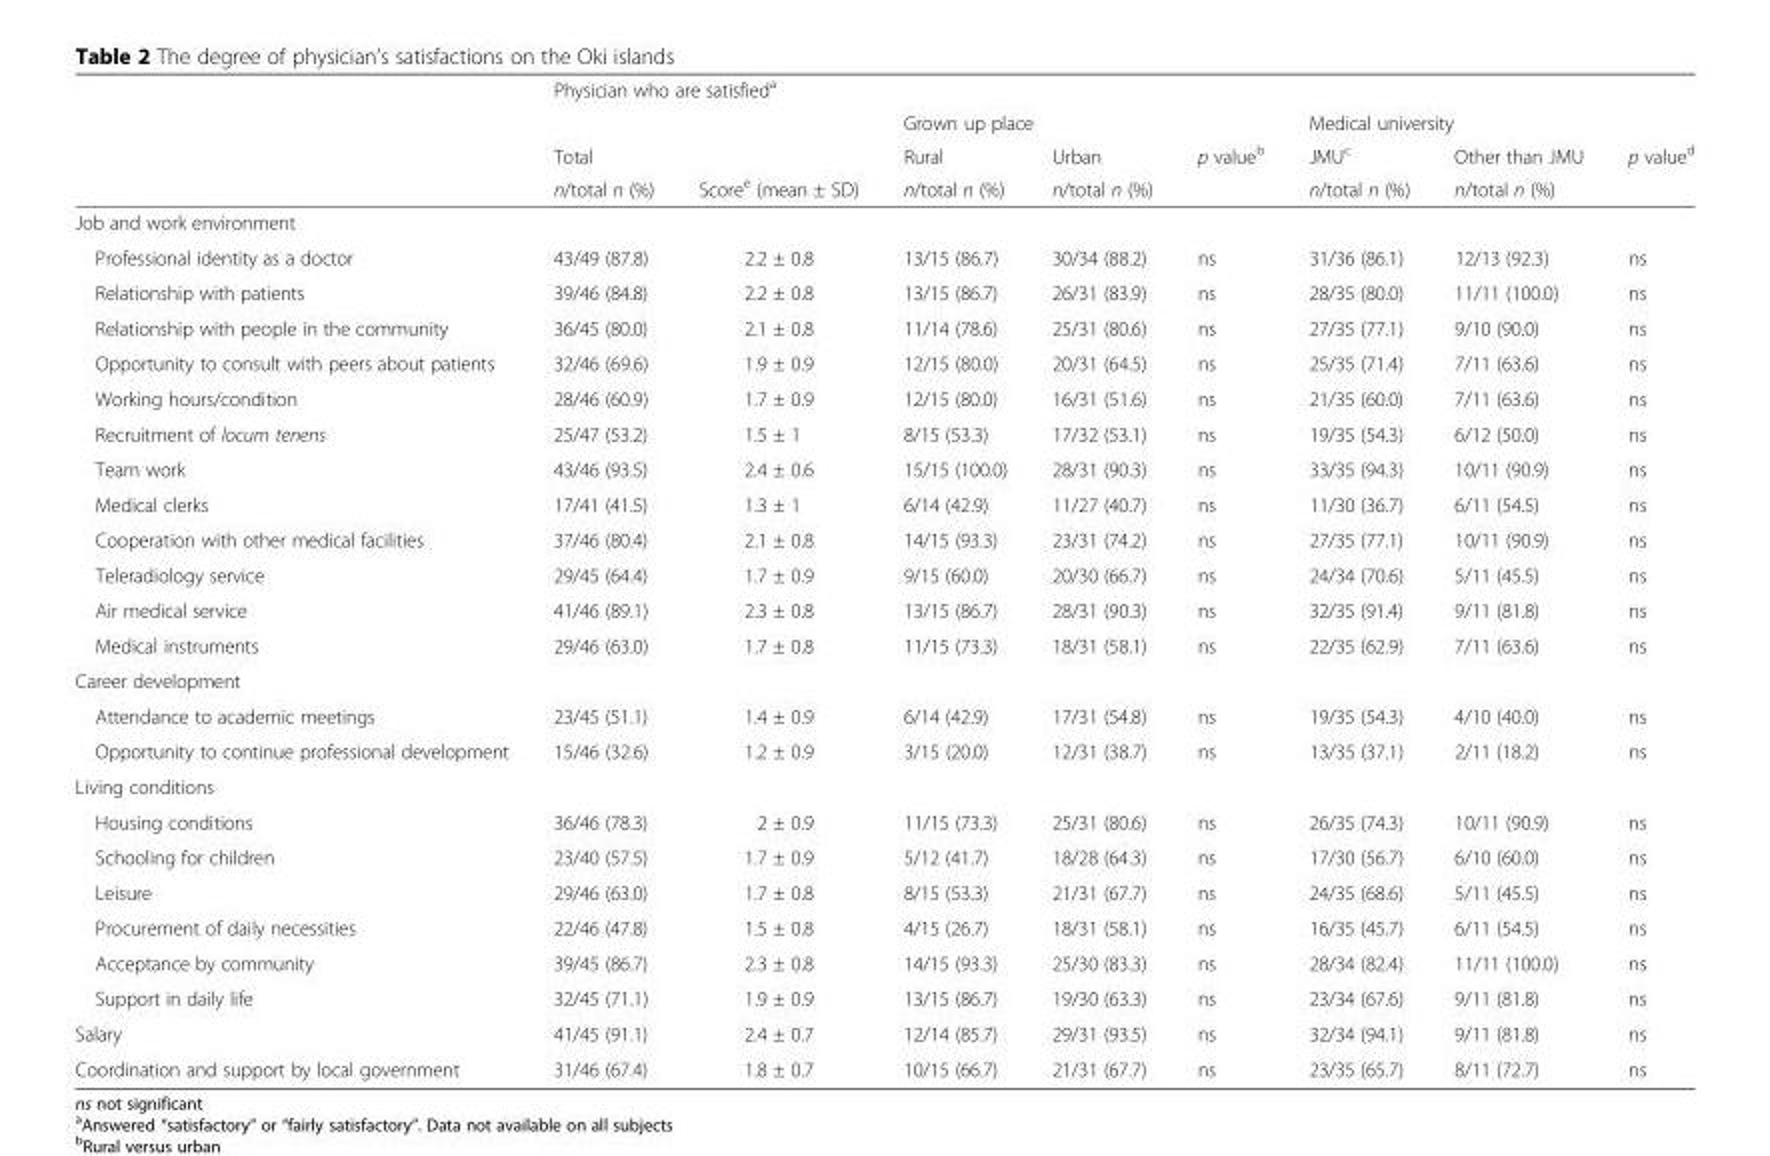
<table><thead><tr><td rowspan="4"></td><td colspan="8">Physician who are satisfied<sup>a</sup></td></tr><tr><td></td><td></td><td colspan="3">Grown up place</td><td colspan="3">Medical university</td></tr><tr><td colspan="2">Total</td><td rowspan="2">Rural n/total n (%)</td><td rowspan="2">Urban n/total n (%)</td><td rowspan="2">p value<sup>b</sup></td><td rowspan="2">JMU<sup>c</sup> n/total n (%)</td><td rowspan="2">Other than JMU n/total n (%)</td><td rowspan="2">p value<sup>d</sup></td></tr><tr><td>n/total n (%)</td><td>Score<sup>e</sup> (mean ± SD)</td></tr></thead><tbody><tr><td colspan="9">Job and work environment</td></tr><tr><td>Professional identity as a doctor</td><td>43/49 (87.8)</td><td>2.2 ± 0.8</td><td>13/15 (86.7)</td><td>30/34 (88.2)</td><td>ns</td><td>31/36 (86.1)</td><td>12/13 (92.3)</td><td>ns</td></tr><tr><td>Relationship with patients</td><td>39/46 (84.8)</td><td>2.2 ± 0.8</td><td>13/15 (86.7)</td><td>26/31 (83.9)</td><td>ns</td><td>28/35 (80.0)</td><td>11/11 (100.0)</td><td>ns</td></tr><tr><td>Relationship with people in the community</td><td>36/45 (80.0)</td><td>2.1 ± 0.8</td><td>11/14 (78.6)</td><td>25/31 (80.6)</td><td>ns</td><td>27/35 (77.1)</td><td>9/10 (90.0)</td><td>ns</td></tr><tr><td>Opportunity to consult with peers about patients</td><td>32/46 (69.6)</td><td>1.9 ± 0.9</td><td>12/15 (80.0)</td><td>20/31 (64.5)</td><td>ns</td><td>25/35 (71.4)</td><td>7/11 (63.6)</td><td>ns</td></tr><tr><td>Working hours/condition</td><td>28/46 (60.9)</td><td>1.7 ± 0.9</td><td>12/15 (80.0)</td><td>16/31 (51.6)</td><td>ns</td><td>21/35 (60.0)</td><td>7/11 (63.6)</td><td>ns</td></tr><tr><td>Recruitment of locum tenens</td><td>25/47 (53.2)</td><td>1.5 ± 1</td><td>8/15 (53.3)</td><td>17/32 (53.1)</td><td>ns</td><td>19/35 (54.3)</td><td>6/12 (50.0)</td><td>ns</td></tr><tr><td>Team work</td><td>43/46 (93.5)</td><td>2.4 ± 0.6</td><td>15/15 (100.0)</td><td>28/31 (90.3)</td><td>ns</td><td>33/35 (94.3)</td><td>10/11 (90.9)</td><td>ns</td></tr><tr><td>Medical clerks</td><td>17/41 (41.5)</td><td>1.3 ± 1</td><td>6/14 (42.9)</td><td>11/27 (40.7)</td><td>ns</td><td>11/30 (36.7)</td><td>6/11 (54.5)</td><td>ns</td></tr><tr><td>Cooperation with other medical facilities</td><td>37/46 (80.4)</td><td>2.1 ± 0.8</td><td>14/15 (93.3)</td><td>23/31 (74.2)</td><td>ns</td><td>27/35 (77.1)</td><td>10/11 (90.9)</td><td>ns</td></tr><tr><td>Teleradiology service</td><td>29/45 (64.4)</td><td>1.7 ± 0.9</td><td>9/15 (60.0)</td><td>20/30 (66.7)</td><td>ns</td><td>24/34 (70.6)</td><td>5/11 (45.5)</td><td>ns</td></tr><tr><td>Air medical service</td><td>41/46 (89.1)</td><td>2.3 ± 0.8</td><td>13/15 (86.7)</td><td>28/31 (90.3)</td><td>ns</td><td>32/35 (91.4)</td><td>9/11 (81.8)</td><td>ns</td></tr><tr><td>Medical instruments</td><td>29/46 (63.0)</td><td>1.7 ± 0.8</td><td>11/15 (73.3)</td><td>18/31 (58.1)</td><td>ns</td><td>22/35 (62.9)</td><td>7/11 (63.6)</td><td>ns</td></tr><tr><td colspan="9">Career development</td></tr><tr><td>Attendance to academic meetings</td><td>23/45 (51.1)</td><td>1.4 ± 0.9</td><td>6/14 (42.9)</td><td>17/31 (54.8)</td><td>ns</td><td>19/35 (54.3)</td><td>4/10 (40.0)</td><td>ns</td></tr><tr><td>Opportunity to continue professional development</td><td>15/46 (32.6)</td><td>1.2 ± 0.9</td><td>3/15 (20.0)</td><td>12/31 (38.7)</td><td>ns</td><td>13/35 (37.1)</td><td>2/11 (18.2)</td><td>ns</td></tr><tr><td colspan="9">Living conditions</td></tr><tr><td>Housing conditions</td><td>36/46 (78.3)</td><td>2 ± 0.9</td><td>11/15 (73.3)</td><td>25/31 (80.6)</td><td>ns</td><td>26/35 (74.3)</td><td>10/11 (90.9)</td><td>ns</td></tr><tr><td>Schooling for children</td><td>23/40 (57.5)</td><td>1.7 ± 0.9</td><td>5/12 (41.7)</td><td>18/28 (64.3)</td><td>ns</td><td>17/30 (56.7)</td><td>6/10 (60.0)</td><td>ns</td></tr><tr><td>Leisure</td><td>29/46 (63.0)</td><td>1.7 ± 0.8</td><td>8/15 (53.3)</td><td>21/31 (67.7)</td><td>ns</td><td>24/35 (68.6)</td><td>5/11 (45.5)</td><td>ns</td></tr><tr><td>Procurement of daily necessities</td><td>22/46 (47.8)</td><td>1.5 ± 0.8</td><td>4/15 (26.7)</td><td>18/31 (58.1)</td><td>ns</td><td>16/35 (45.7)</td><td>6/11 (54.5)</td><td>ns</td></tr><tr><td>Acceptance by community</td><td>39/45 (86.7)</td><td>2.3 ± 0.8</td><td>14/15 (93.3)</td><td>25/30 (83.3)</td><td>ns</td><td>28/34 (82.4)</td><td>11/11 (100.0)</td><td>ns</td></tr><tr><td>Support in daily life</td><td>32/45 (71.1)</td><td>1.9 ± 0.9</td><td>13/15 (86.7)</td><td>19/30 (63.3)</td><td>ns</td><td>23/34 (67.6)</td><td>9/11 (81.8)</td><td>ns</td></tr><tr><td>Salary</td><td>41/45 (91.1)</td><td>2.4 ± 0.7</td><td>12/14 (85.7)</td><td>29/31 (93.5)</td><td>ns</td><td>32/34 (94.1)</td><td>9/11 (81.8)</td><td>ns</td></tr><tr><td>Coordination and support by local government</td><td>31/46 (67.4)</td><td>1.8 ± 0.7</td><td>10/15 (66.7)</td><td>21/31 (67.7)</td><td>ns</td><td>23/35 (65.7)</td><td>8/11 (72.7)</td><td>ns</td></tr></tbody></table>